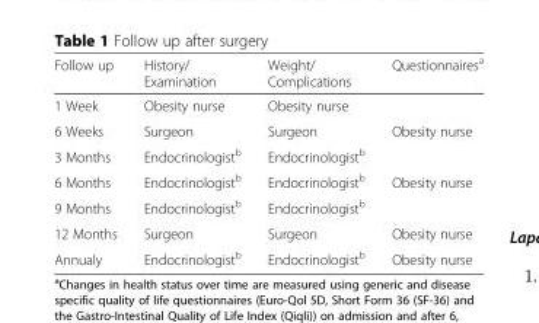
<table><thead><tr><td>Follow up</td><td>History/ Examination</td><td>Weight/ Complications</td><td>Questionnaires<sup>a</sup></td></tr></thead><tbody><tr><td>1 Week</td><td>Obesity nurse</td><td>Obesity nurse</td><td></td></tr><tr><td>6 Weeks</td><td>Surgeon</td><td>Surgeon</td><td>Obesity nurse</td></tr><tr><td>3 Months</td><td>Endocrinologist<sup>b</sup></td><td>Endocrinologist<sup>b</sup></td><td></td></tr><tr><td>6 Months</td><td>Endocrinologist<sup>b</sup></td><td>Endocrinologist<sup>b</sup></td><td>Obesity nurse</td></tr><tr><td>9 Months</td><td>Endocrinologist<sup>b</sup></td><td>Endocrinologist<sup>b</sup></td><td></td></tr><tr><td>12 Months</td><td>Surgeon</td><td>Surgeon</td><td>Obesity nurse</td></tr><tr><td>Annualy</td><td>Endocrinologist<sup>b</sup></td><td>Endocrinologist<sup>b</sup></td><td>Obesity nurse</td></tr></tbody></table>